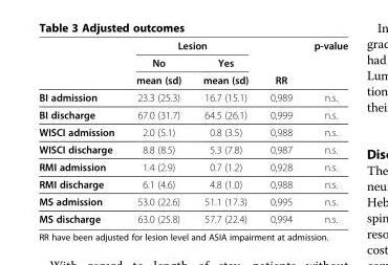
<table><thead><tr><td rowspan="3"></td><td colspan="2">Lesion</td><td rowspan="3">RR</td><td rowspan="3">p-value</td></tr><tr><td rowspan="2">No mean (sd)</td><td rowspan="2">Yes mean (sd)</td></tr><tr></tr></thead><tbody><tr><td>BI admission</td><td>23.3 (25.3)</td><td>16.7 (15.1)</td><td>0,989</td><td>n.s.</td></tr><tr><td>BI discharge</td><td>67.0 (31.7)</td><td>64.5 (26.1)</td><td>0,999</td><td>n.s.</td></tr><tr><td>WISCI admission</td><td>2.0 (5.1)</td><td>0.8 (3.5)</td><td>0,988</td><td>n.s.</td></tr><tr><td>WISCI discharge</td><td>8.8 (8.5)</td><td>5.3 (7.8)</td><td>0,987</td><td>n.s.</td></tr><tr><td>RMI admission</td><td>1.4 (2.9)</td><td>0.7 (1.2)</td><td>0,928</td><td>n.s.</td></tr><tr><td>RMI discharge</td><td>6.1 (4.6)</td><td>4.8 (1.0)</td><td>0,988</td><td>n.s.</td></tr><tr><td>MS admission</td><td>53.0 (22.6)</td><td>51.1 (17.3)</td><td>0,995</td><td>n.s.</td></tr><tr><td>MS discharge</td><td>63.0 (25.8)</td><td>57.7 (22.4)</td><td>0,994</td><td>n.s.</td></tr></tbody></table>